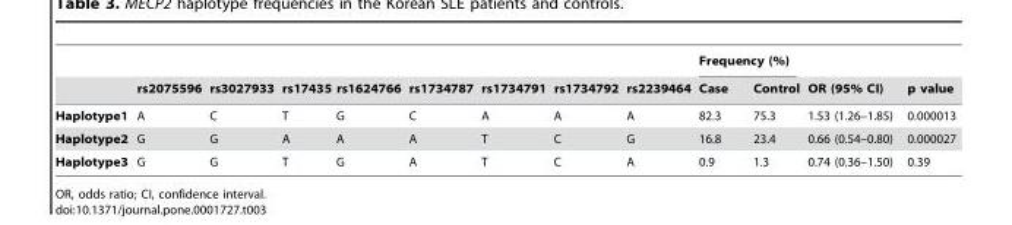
<table><thead><tr><td rowspan="2"></td><td rowspan="2">rs2075596</td><td rowspan="2">rs3027933</td><td rowspan="2">rs17435</td><td rowspan="2">rs1624766</td><td rowspan="2">rs1734787</td><td rowspan="2">rs1734791</td><td rowspan="2">rs1734792</td><td rowspan="2">rs2239464</td><td colspan="2">Frequency (%)</td><td rowspan="2">OR (95% CI)</td><td rowspan="2">p value</td></tr><tr><td>Case</td><td>Control</td></tr></thead><tbody><tr><td>Haplotype1</td><td>A</td><td>C</td><td>T</td><td>G</td><td>C</td><td>A</td><td>A</td><td>A</td><td>82.3</td><td>75.3</td><td>1.53 (1.26–1.85)</td><td>0.000013</td></tr><tr><td>Haplotype2</td><td>G</td><td>G</td><td>A</td><td>A</td><td>A</td><td>T</td><td>C</td><td>G</td><td>16.8</td><td>23.4</td><td>0.66 (0.54–0.80)</td><td>0.000027</td></tr><tr><td>Haplotype3</td><td>G</td><td>G</td><td>T</td><td>G</td><td>A</td><td>T</td><td>C</td><td>A</td><td>0.9</td><td>1.3</td><td>0.74 (0.36–1.50)</td><td>0.39</td></tr></tbody></table>